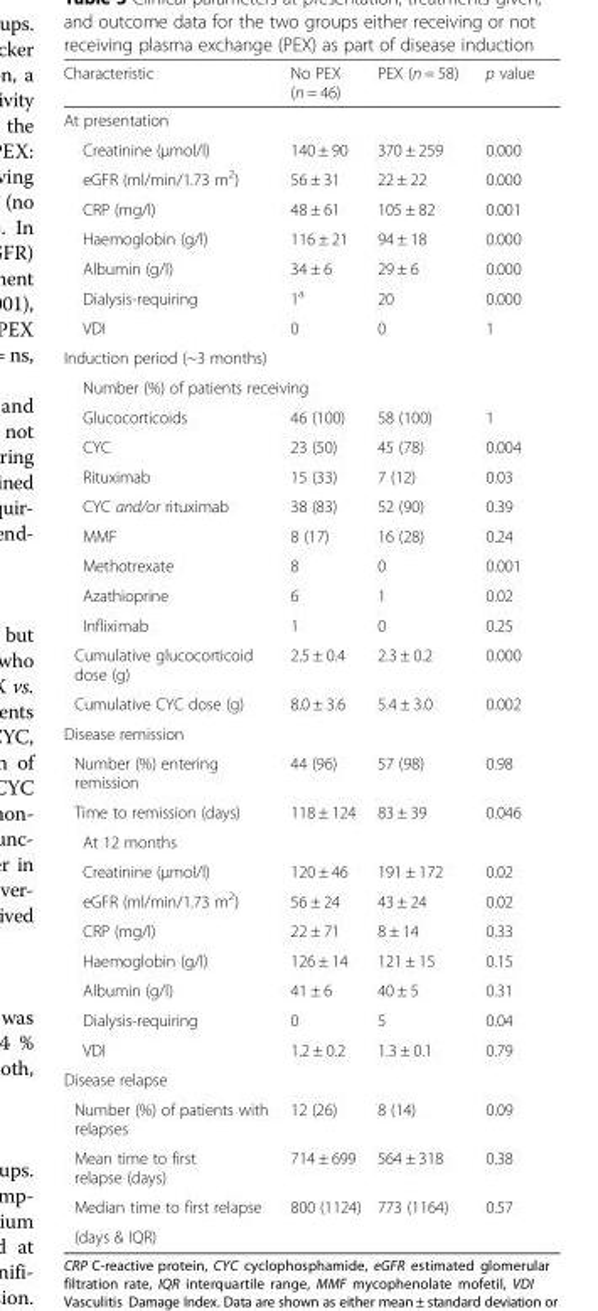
<table><thead><tr><td>Characteristic</td><td>No PEX (n = 46)</td><td>PEX (n = 58)</td><td>p value</td></tr></thead><tbody><tr><td colspan="4">At presentation</td></tr><tr><td>Creatinine (μmol/l)</td><td>140 ± 90</td><td>370 ± 259</td><td>0.000</td></tr><tr><td>eGFR (ml/min/1.73 m<sup>2</sup>)</td><td>56 ± 31</td><td>22 ± 22</td><td>0.000</td></tr><tr><td>CRP (mg/l)</td><td>48 ± 61</td><td>105 ± 82</td><td>0.001</td></tr><tr><td>Haemoglobin (g/l)</td><td>116 ± 21</td><td>94 ± 18</td><td>0.000</td></tr><tr><td>Albumin (g/l)</td><td>34 ± 6</td><td>29 ± 6</td><td>0.000</td></tr><tr><td>Dialysis-requiring</td><td>1<sup>a</sup></td><td>20</td><td>0.000</td></tr><tr><td>VDI</td><td>0</td><td>0</td><td>1</td></tr><tr><td colspan="4">Induction period (~3 months)</td></tr><tr><td colspan="4">Number (%) of patients receiving</td></tr><tr><td>Glucocorticoids</td><td>46 (100)</td><td>58 (100)</td><td>1</td></tr><tr><td>CYC</td><td>23 (50)</td><td>45 (78)</td><td>0.004</td></tr><tr><td>Rituximab</td><td>15 (33)</td><td>7 (12)</td><td>0.03</td></tr><tr><td>CYC and/or rituximab</td><td>38 (83)</td><td>52 (90)</td><td>0.39</td></tr><tr><td>MMF</td><td>8 (17)</td><td>16 (28)</td><td>0.24</td></tr><tr><td>Methotrexate</td><td>8</td><td>0</td><td>0.001</td></tr><tr><td>Azathioprine</td><td>6</td><td>1</td><td>0.02</td></tr><tr><td>Infliximab</td><td>1</td><td>0</td><td>0.25</td></tr><tr><td>Cumulative glucocorticoid dose (g)</td><td>2.5 ± 0.4</td><td>2.3 ± 0.2</td><td>0.000</td></tr><tr><td>Cumulative CYC dose (g)</td><td>8.0 ± 3.6</td><td>5.4 ± 3.0</td><td>0.002</td></tr><tr><td colspan="4">Disease remission</td></tr><tr><td>Number (%) entering remission</td><td>44 (96)</td><td>57 (98)</td><td>0.98</td></tr><tr><td>Time to remission (days)</td><td>118 ± 124</td><td>83 ± 39</td><td>0.046</td></tr><tr><td colspan="4">At 12 months</td></tr><tr><td>Creatinine (μmol/l)</td><td>120 ± 46</td><td>191 ± 172</td><td>0.02</td></tr><tr><td>eGFR (ml/min/1.73 m<sup>2</sup>)</td><td>56 ± 24</td><td>43 ± 24</td><td>0.02</td></tr><tr><td>CRP (mg/l)</td><td>22 ± 71</td><td>8 ± 14</td><td>0.33</td></tr><tr><td>Haemoglobin (g/l)</td><td>126 ± 14</td><td>121 ± 15</td><td>0.15</td></tr><tr><td>Albumin (g/l)</td><td>41 ± 6</td><td>40 ± 5</td><td>0.31</td></tr><tr><td>Dialysis-requiring</td><td>0</td><td>5</td><td>0.04</td></tr><tr><td>VDI</td><td>1.2 ± 0.2</td><td>1.3 ± 0.1</td><td>0.79</td></tr><tr><td colspan="4">Disease relapse</td></tr><tr><td>Number (%) of patients with relapses</td><td>12 (26)</td><td>8 (14)</td><td>0.09</td></tr><tr><td>Mean time to first relapse (days)</td><td>714 ± 699</td><td>564 ± 318</td><td>0.38</td></tr><tr><td>Median time to first relapse</td><td>800 (1124)</td><td>773 (1164)</td><td>0.57</td></tr><tr><td>(days &amp; IQR)</td><td></td><td></td><td></td></tr></tbody></table>